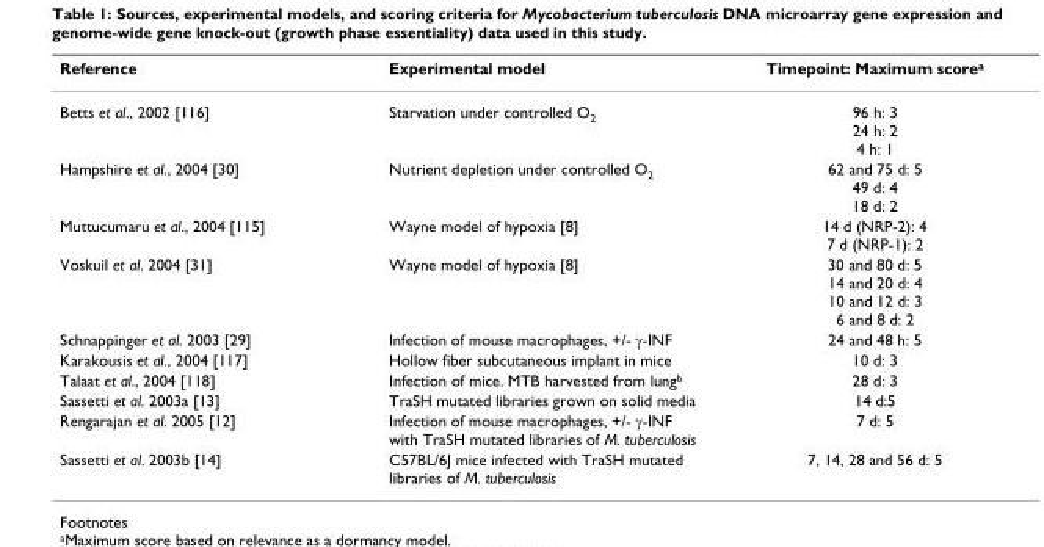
<table><thead><tr><td>Reference</td><td>Experimental model</td><td>Timepoint: Maximum score<sup>a</sup></td></tr></thead><tbody><tr><td>Betts et al., 2002 [116]</td><td>Starvation under controlled O<sub>2</sub></td><td>96 h: 3 24 h: 2 4 h: 1</td></tr><tr><td>Hampshire et al., 2004 [30]</td><td>Nutrient depletion under controlled O<sub>2</sub></td><td>62 and 75 d: 5 49 d: 4 18 d: 2</td></tr><tr><td>Muttucumaru et al., 2004 [115]</td><td>Wayne model of hypoxia [8]</td><td>14 d (NRP-2): 4 7 d (NRP-1): 2</td></tr><tr><td>Voskuil et al. 2004 [31]</td><td>Wayne model of hypoxia [8]</td><td>30 and 80 d: 5 14 and 20 d: 4 10 and 12 d: 3 6 and 8 d: 2</td></tr><tr><td>Schnappinger et al. 2003 [29]</td><td>Infection of mouse macrophages, +/- γ-INF</td><td>24 and 48 h: 5</td></tr><tr><td>Karakousis et al., 2004 [117]</td><td>Hollow fiber subcutaneous implant in mice</td><td>10 d: 3</td></tr><tr><td>Talaat et al., 2004 [118]</td><td>Infection of mice. MTB harvested from lung<sup>b</sup></td><td>28 d: 3</td></tr><tr><td>Sassetti et al. 2003a [13]</td><td>TraSH mutated libraries grown on solid media</td><td>14 d:5</td></tr><tr><td>Rengarajan et al. 2005 [12]</td><td>Infection of mouse macrophages, +/- γ-INF with TraSH mutated libraries of M. tuberculosis</td><td>7 d: 5</td></tr><tr><td>Sassetti et al. 2003b [14]</td><td>C57BL/6J mice infected with TraSH mutated libraries of M. tuberculosis</td><td>7, 14, 28 and 56 d: 5</td></tr></tbody></table>